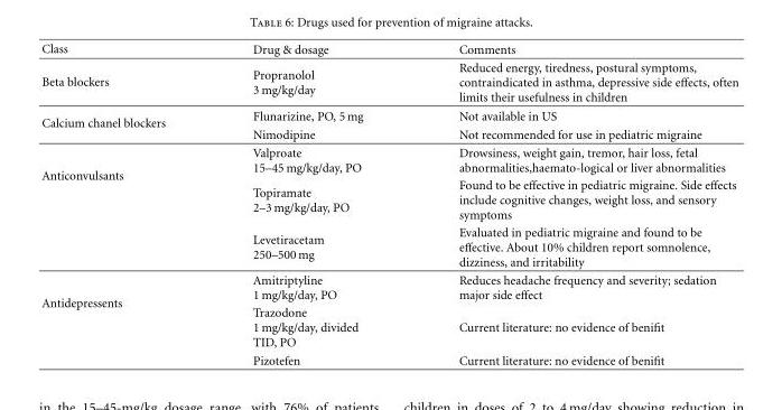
<table><thead><tr><td>Class</td><td>Drug &amp; dosage</td><td>Comments</td></tr></thead><tbody><tr><td>Beta blockers</td><td>Propranolol 3 mg/kg/day</td><td>Reduced energy, tiredness, postural symptoms, contraindicated in asthma, depressive side effects, often limits their usefulness in children</td></tr><tr><td rowspan="2">Calcium chanel blockers</td><td>Flunarizine, PO, 5 mg</td><td>Not available in US</td></tr><tr><td>Nimodipine</td><td>Not recommended for use in pediatric migraine</td></tr><tr><td rowspan="3">Anticonvulsants</td><td>Valproate 15–45 mg/kg/day, PO</td><td>Drowsiness, weight gain, tremor, hair loss, fetal abnormalities,haemato-logical or liver abnormalities</td></tr><tr><td>Topiramate 2–3 mg/kg/day, PO</td><td>Found to be effective in pediatric migraine. Side effects include cognitive changes, weight loss, and sensory symptoms</td></tr><tr><td>Levetiracetam 250–500 mg</td><td>Evaluated in pediatric migraine and found to be effective. About 10% children report somnolence, dizziness, and irritability</td></tr><tr><td rowspan="3">Antidepressents</td><td>Amitriptyline 1 mg/kg/day, PO</td><td>Reduces headache frequency and severity; sedation major side effect</td></tr><tr><td>Trazodone 1 mg/kg/day, divided TID, PO</td><td>Current literature: no evidence of benifit</td></tr><tr><td>Pizotefen</td><td>Current literature: no evidence of benifit</td></tr></tbody></table>